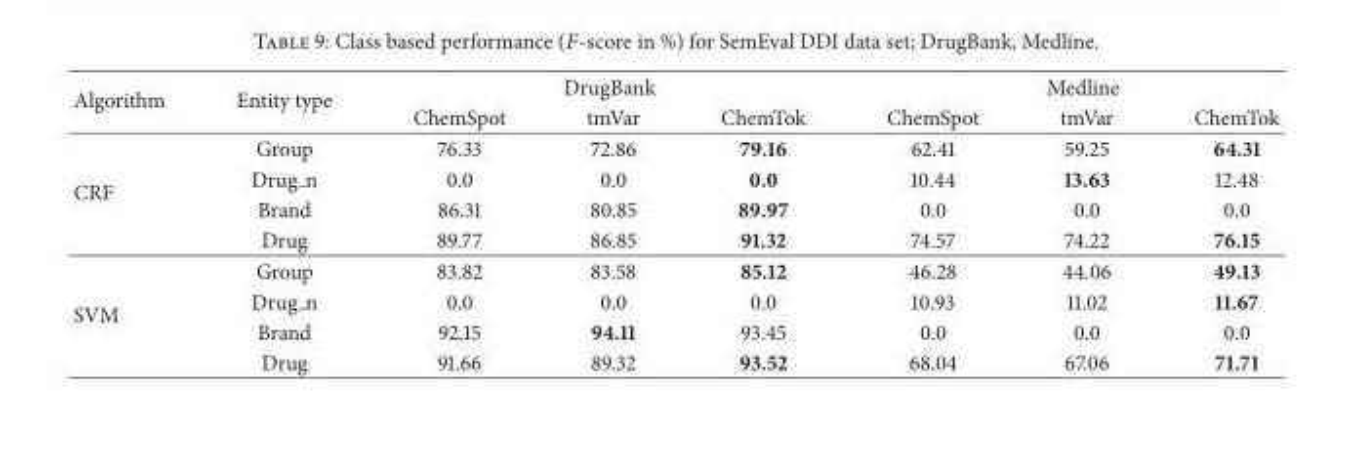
<table><thead><tr><td rowspan="2">Algorithm</td><td rowspan="2">Entity type</td><td colspan="3">DrugBank</td><td colspan="3">Medline</td></tr><tr><td>ChemSpot</td><td>tmVar</td><td>ChemTok</td><td>ChemSpot</td><td>tmVar</td><td>ChemTok</td></tr></thead><tbody><tr><td rowspan="4">CRF</td><td>Group</td><td>76.33</td><td>72.86</td><td>79.16</td><td>62.41</td><td>59.25</td><td>64.31</td></tr><tr><td>Drug n</td><td>0.0</td><td>0.0</td><td>0.0</td><td>10.44</td><td>13.63</td><td>12.48</td></tr><tr><td>Brand</td><td>86.31</td><td>80.85</td><td>89.97</td><td>0.0</td><td>0.0</td><td>0.0</td></tr><tr><td>Drug</td><td>89.77</td><td>86.85</td><td>91.32</td><td>74.57</td><td>74.22</td><td>76.15</td></tr><tr><td rowspan="4">SVM</td><td>Group</td><td>83.82</td><td>83.58</td><td>85.12</td><td>46.28</td><td>44.06</td><td>49.13</td></tr><tr><td>Drug n</td><td>0.0</td><td>0.0</td><td>0.0</td><td>10.93</td><td>11.02</td><td>11.67</td></tr><tr><td>Brand</td><td>92.15</td><td>94.11</td><td>93.45</td><td>0.0</td><td>0.0</td><td>0.0</td></tr><tr><td>Drug</td><td>91.66</td><td>89.32</td><td>93.52</td><td>68.04</td><td>67.06</td><td>71.71</td></tr></tbody></table>